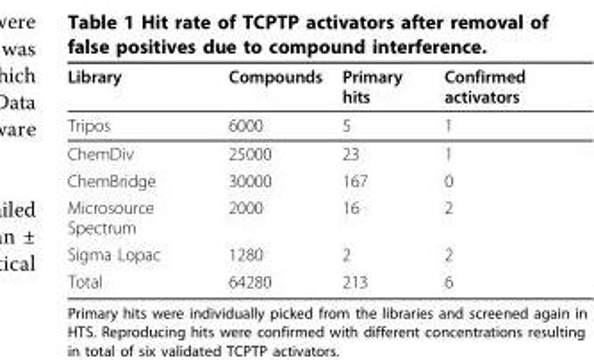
<table><thead><tr><td>Library</td><td>Compounds</td><td>Primary hits</td><td>Confirmed activators</td></tr></thead><tbody><tr><td>Tripos</td><td>6000</td><td>5</td><td>1</td></tr><tr><td>ChemDiv</td><td>25000</td><td>23</td><td>1</td></tr><tr><td>ChemBridge</td><td>30000</td><td>167</td><td>0</td></tr><tr><td>Microsource Spectrum</td><td>2000</td><td>16</td><td>2</td></tr><tr><td>Sigma Lopac</td><td>1280</td><td>2</td><td>2</td></tr><tr><td>Total</td><td>64280</td><td>213</td><td>6</td></tr></tbody></table>